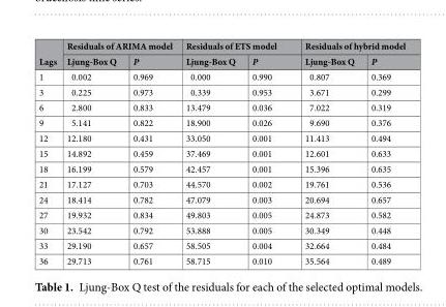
<table><thead><tr><td rowspan="2">Lags</td><td colspan="2">Residuals of ARIMA model</td><td colspan="2">Residuals of ETS model</td><td colspan="2">Residuals of hybrid model</td></tr><tr><td>Ljung-Box Q</td><td>P</td><td>Ljung-Box Q</td><td>P</td><td>Ljung-Box Q</td><td>P</td></tr></thead><tbody><tr><td>1</td><td>0.002</td><td>0.969</td><td>0.000</td><td>0.990</td><td>0.807</td><td>0.369</td></tr><tr><td>3</td><td>0.225</td><td>0.973</td><td>0.339</td><td>0.953</td><td>3.671</td><td>0.299</td></tr><tr><td>6</td><td>2.800</td><td>0.833</td><td>13.479</td><td>0.036</td><td>7.022</td><td>0.319</td></tr><tr><td>9</td><td>5.141</td><td>0.822</td><td>18.900</td><td>0.026</td><td>9.690</td><td>0.376</td></tr><tr><td>12</td><td>12.180</td><td>0.431</td><td>33.050</td><td>0.001</td><td>11.413</td><td>0.494</td></tr><tr><td>15</td><td>14.892</td><td>0.459</td><td>37.469</td><td>0.001</td><td>12.601</td><td>0.633</td></tr><tr><td>18</td><td>16.199</td><td>0.579</td><td>42.457</td><td>0.001</td><td>15.396</td><td>0.635</td></tr><tr><td>21</td><td>17.127</td><td>0.703</td><td>44.570</td><td>0.002</td><td>19.761</td><td>0.536</td></tr><tr><td>24</td><td>18.414</td><td>0.782</td><td>47.079</td><td>0.003</td><td>20.694</td><td>0.657</td></tr><tr><td>27</td><td>19.932</td><td>0.834</td><td>49.803</td><td>0.005</td><td>24.873</td><td>0.582</td></tr><tr><td>30</td><td>23.542</td><td>0.792</td><td>53.888</td><td>0.005</td><td>30.349</td><td>0.448</td></tr><tr><td>33</td><td>29.190</td><td>0.657</td><td>58.505</td><td>0.004</td><td>32.664</td><td>0.484</td></tr><tr><td>36</td><td>29.713</td><td>0.761</td><td>58.715</td><td>0.010</td><td>35.564</td><td>0.489</td></tr></tbody></table>